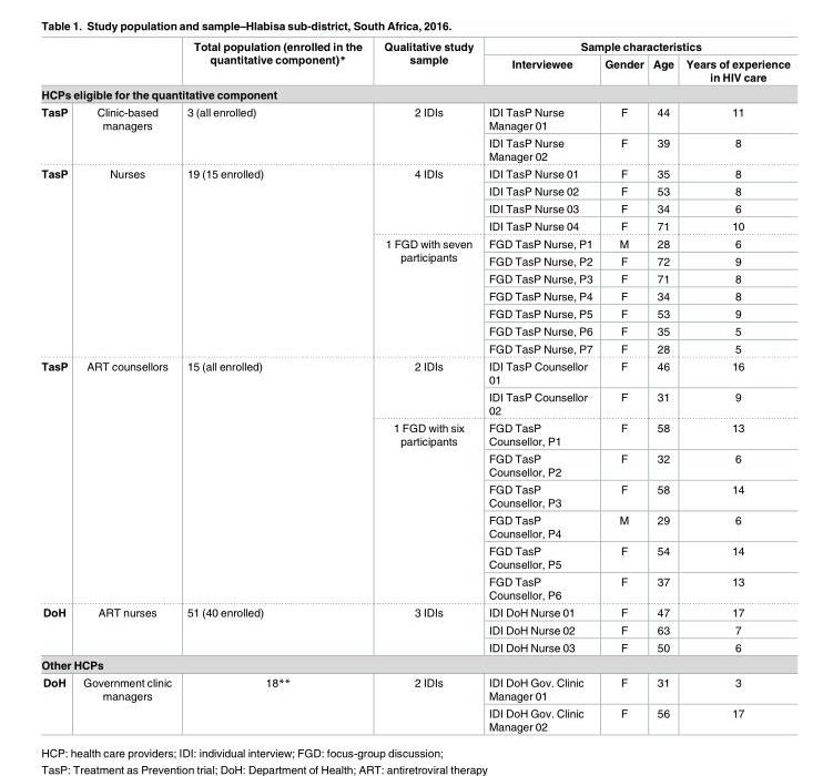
<table><thead><tr><td rowspan="2"></td><td rowspan="2"></td><td rowspan="2">Total population (enrolled in the quantitative component)*</td><td rowspan="2">Qualitative study sample</td><td colspan="4">Sample characteristics</td></tr><tr><td>Interviewee</td><td>Gender</td><td>Age</td><td>Years of experience in HIV care</td></tr></thead><tbody><tr><td colspan="8">HCPs eligible for the quantitative component</td></tr><tr><td rowspan="2">TasP</td><td rowspan="2">Clinic-based managers</td><td rowspan="2">3 (all enrolled)</td><td rowspan="2">2 IDIs</td><td>IDI TasP Nurse Manager 01</td><td>F</td><td>44</td><td>11</td></tr><tr><td>IDI TasP Nurse Manager 02</td><td>F</td><td>39</td><td>8</td></tr><tr><td rowspan="11">TasP</td><td rowspan="11">Nurses</td><td rowspan="11">19 (15 enrolled)</td><td rowspan="4">4 IDIs</td><td>IDI TasP Nurse 01</td><td>F</td><td>35</td><td>8</td></tr><tr><td>IDI TasP Nurse 02</td><td>F</td><td>53</td><td>8</td></tr><tr><td>IDI TasP Nurse 03</td><td>F</td><td>34</td><td>6</td></tr><tr><td>IDI TasP Nurse 04</td><td>F</td><td>71</td><td>10</td></tr><tr><td rowspan="7">1 FGD with seven participants</td><td>FGD TasP Nurse, P1</td><td>M</td><td>28</td><td>6</td></tr><tr><td>FGD TasP Nurse, P2</td><td>F</td><td>72</td><td>9</td></tr><tr><td>FGD TasP Nurse, P3</td><td>F</td><td>71</td><td>8</td></tr><tr><td>FGD TasP Nurse, P4</td><td>F</td><td>34</td><td>8</td></tr><tr><td>FGD TasP Nurse, P5</td><td>F</td><td>53</td><td>9</td></tr><tr><td>FGD TasP Nurse, P6</td><td>F</td><td>35</td><td>5</td></tr><tr><td>FGD TasP Nurse, P7</td><td>F</td><td>28</td><td>5</td></tr><tr><td rowspan="8">TasP</td><td rowspan="8">ART counsellors</td><td rowspan="8">15 (all enrolled)</td><td rowspan="2">2 IDIs</td><td>IDI TasP Counsellor 01</td><td>F</td><td>46</td><td>16</td></tr><tr><td>IDI TasP Counsellor 02</td><td>F</td><td>31</td><td>9</td></tr><tr><td rowspan="6">1 FGD with six participants</td><td>FGD TasP Counsellor, P1</td><td>F</td><td>58</td><td>13</td></tr><tr><td>FGD TasP Counsellor, P2</td><td>F</td><td>32</td><td>6</td></tr><tr><td>FGD TasP Counsellor, P3</td><td>F</td><td>58</td><td>14</td></tr><tr><td>FGD TasP Counsellor, P4</td><td>M</td><td>29</td><td>6</td></tr><tr><td>FGD TasP Counsellor, P5</td><td>F</td><td>54</td><td>14</td></tr><tr><td>FGD TasP Counsellor, P6</td><td>F</td><td>37</td><td>13</td></tr><tr><td rowspan="3">DoH</td><td rowspan="3">ART nurses</td><td rowspan="3">51 (40 enrolled)</td><td rowspan="3">3 IDIs</td><td>IDI DoH Nurse 01</td><td>F</td><td>47</td><td>17</td></tr><tr><td>IDI DoH Nurse 02</td><td>F</td><td>63</td><td>7</td></tr><tr><td>IDI DoH Nurse 03</td><td>F</td><td>50</td><td>6</td></tr><tr><td colspan="8">Other HCPs</td></tr><tr><td rowspan="2">DoH</td><td rowspan="2">Government clinic managers</td><td rowspan="2">18**</td><td rowspan="2">2 IDIs</td><td>IDI DoH Gov. Clinic Manager 01</td><td>F</td><td>31</td><td>3</td></tr><tr><td>IDI DoH Gov. Clinic Manager 02</td><td>F</td><td>56</td><td>17</td></tr></tbody></table>